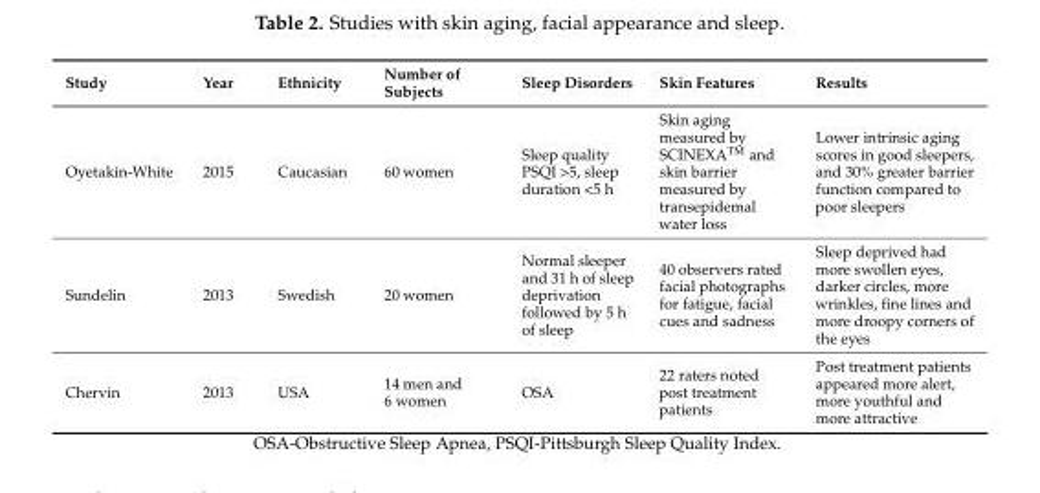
<table><thead><tr><td>Study</td><td>Year</td><td>Ethnicity</td><td>Number of Subjects</td><td>Sleep Disorders</td><td>Skin Features</td><td>Results</td></tr></thead><tbody><tr><td>Oyetakin-White</td><td>2015</td><td>Caucasian</td><td>60 women</td><td>Sleep quality PSQI &gt;5, sleep duration &lt;5 h</td><td>Skin aging measured by SCINEXA<sup>TM</sup> and skin barrier measured by transepidemal water loss</td><td>Lower intrinsic aging scores in good sleepers, and 30% greater barrier function compared to poor sleepers</td></tr><tr><td>Sundelin</td><td>2013</td><td>Swedish</td><td>20 women</td><td>Normal sleeper and 31 h of sleep deprivation followed by 5 h of sleep</td><td>40 observers rated facial photographs for fatigue, facial cues and sadness</td><td>Sleep deprived had more swollen eyes, darker circles, more wrinkles, fine lines and more droopy corners of the eyes</td></tr><tr><td>Chervin</td><td>2013</td><td>USA</td><td>14 men and 6 women</td><td>OSA</td><td>22 raters noted post treatment patients</td><td>Post treatment patients appeared more alert, more youthful and more attractive</td></tr></tbody></table>